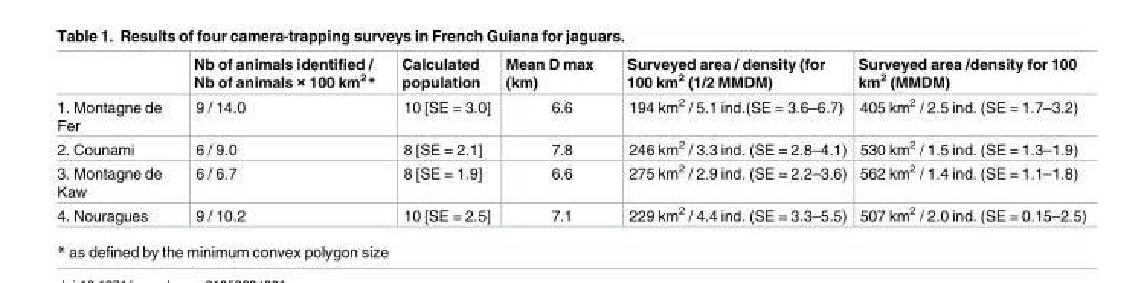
<table><thead><tr><td></td><td>Nb of animals identified / Nb of animals × 100 km<sup>2</sup>*</td><td>Calculated population</td><td>Mean D max (km)</td><td>Surveyed area / density (for 100 km<sup>2</sup> (1/2 MMDM)</td><td>Surveyed area /density for 100 km<sup>2</sup> (MMDM)</td></tr></thead><tbody><tr><td>1. Montagne de Fer</td><td>9 / 14.0</td><td>10 [SE = 3.0]</td><td>6.6</td><td>194 km<sup>2</sup> / 5.1 ind.(SE = 3.6–6.7)</td><td>405 km<sup>2</sup> / 2.5 ind. (SE = 1.7–3.2)</td></tr><tr><td>2. Counami</td><td>6 / 9.0</td><td>8 [SE = 2.1]</td><td>7.8</td><td>246 km<sup>2</sup> / 3.3 ind. (SE = 2.8–4.1)</td><td>530 km<sup>2</sup> / 1.5 ind. (SE = 1.3–1.9)</td></tr><tr><td>3. Montagne de Kaw</td><td>6 / 6.7</td><td>8 [SE = 1.9]</td><td>6.6</td><td>275 km<sup>2</sup> / 2.9 ind. (SE = 2.2–3.6)</td><td>562 km<sup>2</sup> / 1.4 ind. (SE = 1.1–1.8)</td></tr><tr><td>4. Nouragues</td><td>9 / 10.2</td><td>10 [SE = 2.5]</td><td>7.1</td><td>229 km<sup>2</sup> / 4.4 ind. (SE = 3.3–5.5)</td><td>507 km<sup>2</sup> / 2.0 ind. (SE = 0.15–2.5)</td></tr></tbody></table>